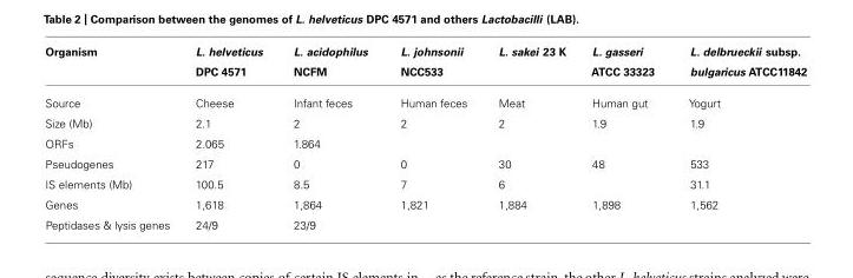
<table><thead><tr><td>Organism</td><td>L. helveticus DPC 4571</td><td>L. acidophilus NCFM</td><td>L. johnsonii NCC533</td><td>L. sakei 23 K</td><td>L. gasseri ATCC 33323</td><td>L. delbrueckii subsp. bulgaricus ATCC11842</td></tr></thead><tbody><tr><td>Source</td><td>Cheese</td><td>Infant feces</td><td>Human feces</td><td>Meat</td><td>Human gut</td><td>Yogurt</td></tr><tr><td>Size (Mb)</td><td>2.1</td><td>2</td><td>2</td><td>2</td><td>1.9</td><td>1.9</td></tr><tr><td>ORFs</td><td>2.065</td><td>1.864</td><td></td><td></td><td></td><td></td></tr><tr><td>Pseudogenes</td><td>217</td><td>0</td><td>0</td><td>30</td><td>48</td><td>533</td></tr><tr><td>IS elements (Mb)</td><td>100.5</td><td>8.5</td><td>7</td><td>6</td><td></td><td>31.1</td></tr><tr><td>Genes</td><td>1,618</td><td>1,864</td><td>1,821</td><td>1,884</td><td>1,898</td><td>1,562</td></tr><tr><td>Peptidases ’ lysis genes</td><td>24/9</td><td>23/9</td><td></td><td></td><td></td><td></td></tr></tbody></table>